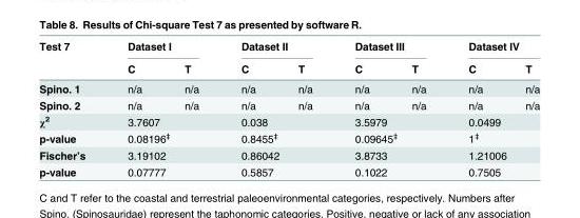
<table><thead><tr><td rowspan="2">Test 7</td><td colspan="2">Dataset I</td><td colspan="2">Dataset II</td><td colspan="2">Dataset III</td><td colspan="2">Dataset IV</td></tr><tr><td>C</td><td>T</td><td>C</td><td>T</td><td>C</td><td>T</td><td>C</td><td>T</td></tr></thead><tbody><tr><td>Spino. 1</td><td>n/a</td><td>n/a</td><td>n/a</td><td>n/a</td><td>n/a</td><td>n/a</td><td>n/a</td><td>n/a</td></tr><tr><td>Spino. 2</td><td>n/a</td><td>n/a</td><td>n/a</td><td>n/a</td><td>n/a</td><td>n/a</td><td>n/a</td><td>n/a</td></tr><tr><td>χ<sup>2</sup></td><td colspan="2">3.7607</td><td colspan="2">0.038</td><td colspan="2">3.5979</td><td colspan="2">0.0499</td></tr><tr><td>p-value</td><td colspan="2">0.08196<sup>‡</sup></td><td colspan="2">0.8455<sup>‡</sup></td><td colspan="2">0.09645<sup>‡</sup></td><td colspan="2">1<sup>‡</sup></td></tr><tr><td>Fischer’s</td><td colspan="2">3.19102</td><td colspan="2">0.86042</td><td colspan="2">3.8733</td><td colspan="2">1.21006</td></tr><tr><td>p-value</td><td colspan="2">0.07777</td><td colspan="2">0.5857</td><td colspan="2">0.1022</td><td colspan="2">0.7505</td></tr></tbody></table>